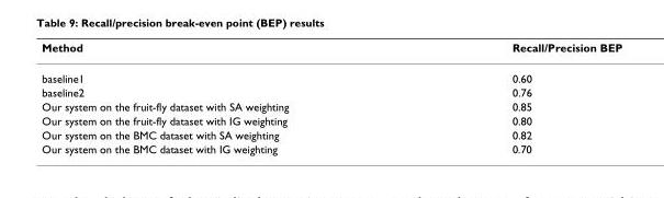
<table><thead><tr><td>Method</td><td>Recall/Precision BEP</td></tr></thead><tbody><tr><td>baseline1</td><td>0.60</td></tr><tr><td>baseline2</td><td>0.76</td></tr><tr><td>Our system on the fruit-fly dataset with SA weighting</td><td>0.85</td></tr><tr><td>Our system on the fruit-fly dataset with IG weighting</td><td>0.80</td></tr><tr><td>Our system on the BMC dataset with SA weighting</td><td>0.82</td></tr><tr><td>Our system on the BMC dataset with IG weighting</td><td>0.70</td></tr></tbody></table>